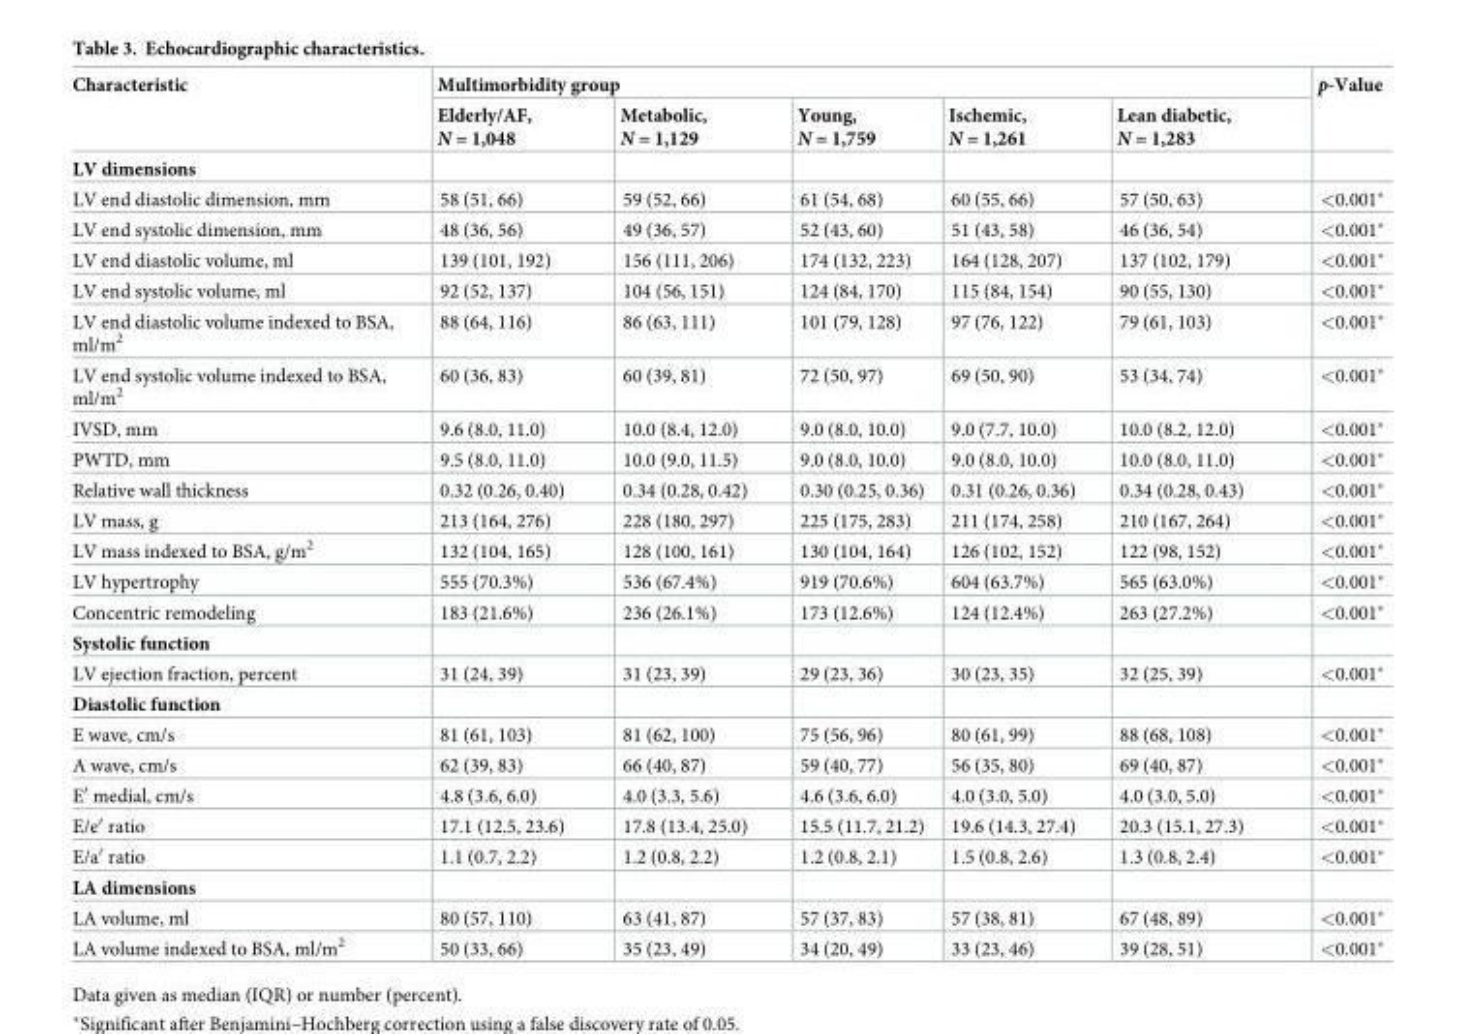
<table><thead><tr><td rowspan="2">Characteristic</td><td colspan="5">Multimorbidity group</td><td rowspan="2">p-Value</td></tr><tr><td>Elderly/AF, N = 1,048</td><td>Metabolic, N = 1,129</td><td>Young, N = 1,759</td><td>Ischemic, N = 1,261</td><td>Lean diabetic, N = 1,283</td></tr></thead><tbody><tr><td colspan="7">LV dimensions</td></tr><tr><td>LV end diastolic dimension, mm</td><td>58 (51, 66)</td><td>59 (52, 66)</td><td>61 (54, 68)</td><td>60 (55, 66)</td><td>57 (50, 63)</td><td>&lt;0.001*</td></tr><tr><td>LV end systolic dimension, mm</td><td>48 (36, 56)</td><td>49 (36, 57)</td><td>52 (43, 60)</td><td>51 (43, 58)</td><td>46 (36, 54)</td><td>&lt;0.001*</td></tr><tr><td>LV end diastolic volume, ml</td><td>139 (101, 192)</td><td>156 (111, 206)</td><td>174 (132, 223)</td><td>164 (128, 207)</td><td>137 (102, 179)</td><td>&lt;0.001*</td></tr><tr><td>LV end systolic volume, ml</td><td>92 (52, 137)</td><td>104 (56, 151)</td><td>124 (84, 170)</td><td>115 (84, 154)</td><td>90 (55, 130)</td><td>&lt;0.001*</td></tr><tr><td>LV end diastolic volume indexed to BSA, ml/m<sup>2</sup></td><td>88 (64, 116)</td><td>86 (63, 111)</td><td>101 (79, 128)</td><td>97 (76, 122)</td><td>79 (61, 103)</td><td>&lt;0.001*</td></tr><tr><td>LV end systolic volume indexed to BSA, ml/m<sup>2</sup></td><td>60 (36, 83)</td><td>60 (39, 81)</td><td>72 (50, 97)</td><td>69 (50, 90)</td><td>53 (34, 74)</td><td>&lt;0.001*</td></tr><tr><td>IVSD, mm</td><td>9.6 (8.0, 11.0)</td><td>10.0 (8.4, 12.0)</td><td>9.0 (8.0, 10.0)</td><td>9.0 (7.7, 10.0)</td><td>10.0 (8.2, 12.0)</td><td>&lt;0.001*</td></tr><tr><td>PWTD, mm</td><td>9.5 (8.0, 11.0)</td><td>10.0 (9.0, 11.5)</td><td>9.0 (8.0, 10.0)</td><td>9.0 (8.0, 10.0)</td><td>10.0 (8.0, 11.0)</td><td>&lt;0.001*</td></tr><tr><td>Relative wall thickness</td><td>0.32 (0.26, 0.40)</td><td>0.34 (0.28, 0.42)</td><td>0.30 (0.25, 0.36)</td><td>0.31 (0.26, 0.36)</td><td>0.34 (0.28, 0.43)</td><td>&lt;0.001*</td></tr><tr><td>LV mass, g</td><td>213 (164, 276)</td><td>228 (180, 297)</td><td>225 (175, 283)</td><td>211 (174, 258)</td><td>210 (167, 264)</td><td>&lt;0.001*</td></tr><tr><td>LV mass indexed to BSA, g/m<sup>2</sup></td><td>132 (104, 165)</td><td>128 (100, 161)</td><td>130 (104, 164)</td><td>126 (102, 152)</td><td>122 (98, 152)</td><td>&lt;0.001*</td></tr><tr><td>LV hypertrophy</td><td>555 (70.3%)</td><td>536 (67.4%)</td><td>919 (70.6%)</td><td>604 (63.7%)</td><td>565 (63.0%)</td><td>&lt;0.001*</td></tr><tr><td>Concentric remodeling</td><td>183 (21.6%)</td><td>236 (26.1%)</td><td>173 (12.6%)</td><td>124 (12.4%)</td><td>263 (27.2%)</td><td>&lt;0.001*</td></tr><tr><td colspan="7">Systolic function</td></tr><tr><td>LV ejection fraction, percent</td><td>31 (24, 39)</td><td>31 (23, 39)</td><td>29 (23, 36)</td><td>30 (23, 35)</td><td>32 (25, 39)</td><td>&lt;0.001*</td></tr><tr><td colspan="7">Diastolic function</td></tr><tr><td>E wave, cm/s</td><td>81 (61, 103)</td><td>81 (62, 100)</td><td>75 (56, 96)</td><td>80 (61, 99)</td><td>88 (68, 108)</td><td>&lt;0.001*</td></tr><tr><td>A wave, cm/s</td><td>62 (39, 83)</td><td>66 (40, 87)</td><td>59 (40, 77)</td><td>56 (35, 80)</td><td>69 (40, 87)</td><td>&lt;0.001*</td></tr><tr><td>E′ medial, cm/s</td><td>4.8 (3.6, 6.0)</td><td>4.0 (3.3, 5.6)</td><td>4.6 (3.6, 6.0)</td><td>4.0 (3.0, 5.0)</td><td>4.0 (3.0, 5.0)</td><td>&lt;0.001*</td></tr><tr><td>E/e′ ratio</td><td>17.1 (12.5, 23.6)</td><td>17.8 (13.4, 25.0)</td><td>15.5 (11.7, 21.2)</td><td>19.6 (14.3, 27.4)</td><td>20.3 (15.1, 27.3)</td><td>&lt;0.001*</td></tr><tr><td>E/a′ ratio</td><td>1.1 (0.7, 2.2)</td><td>1.2 (0.8, 2.2)</td><td>1.2 (0.8, 2.1)</td><td>1.5 (0.8, 2.6)</td><td>1.3 (0.8, 2.4)</td><td>&lt;0.001*</td></tr><tr><td colspan="7">LA dimensions</td></tr><tr><td>LA volume, ml</td><td>80 (57, 110)</td><td>63 (41, 87)</td><td>57 (37, 83)</td><td>57 (38, 81)</td><td>67 (48, 89)</td><td>&lt;0.001*</td></tr><tr><td>LA volume indexed to BSA, ml/m<sup>2</sup></td><td>50 (33, 66)</td><td>35 (23, 49)</td><td>34 (20, 49)</td><td>33 (23, 46)</td><td>39 (28, 51)</td><td>&lt;0.001*</td></tr></tbody></table>